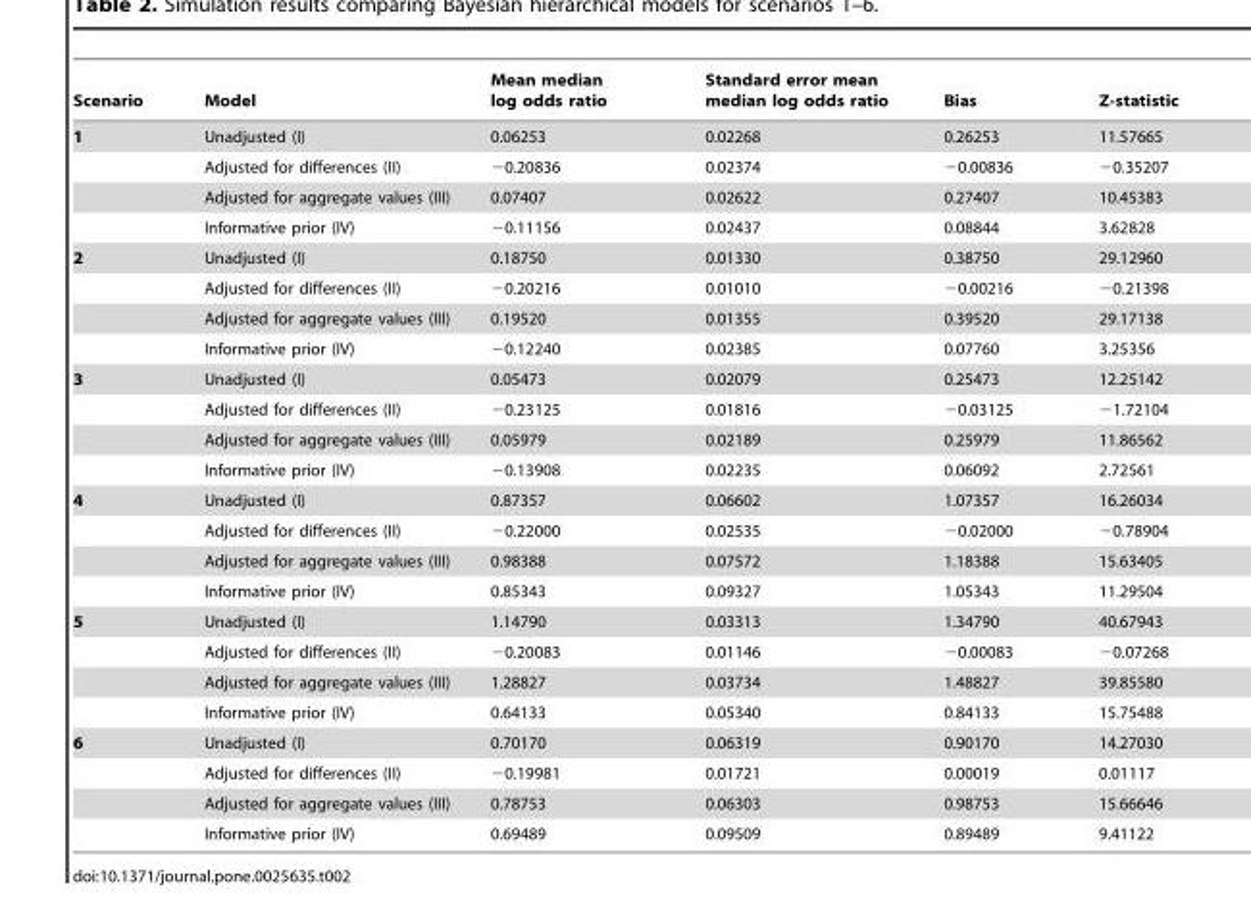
<table><thead><tr><td>Scenario</td><td>Model</td><td>Mean median log odds ratio</td><td>Standard error mean median log odds ratio</td><td>Bias</td><td>Z-statistic</td></tr></thead><tbody><tr><td rowspan="4">1</td><td>Unadjusted (I)</td><td>0.06253</td><td>0.02268</td><td>0.26253</td><td>11.57665</td></tr><tr><td>Adjusted for differences (II)</td><td>−0.20836</td><td>0.02374</td><td>−0.00836</td><td>−0.35207</td></tr><tr><td>Adjusted for aggregate values (III)</td><td>0.07407</td><td>0.02622</td><td>0.27407</td><td>10.45383</td></tr><tr><td>Informative prior (IV)</td><td>−0.11156</td><td>0.02437</td><td>0.08844</td><td>3.62828</td></tr><tr><td rowspan="4">2</td><td>Unadjusted (I)</td><td>0.18750</td><td>0.01330</td><td>0.38750</td><td>29.12960</td></tr><tr><td>Adjusted for differences (II)</td><td>−0.20216</td><td>0.01010</td><td>−0.00216</td><td>−0.21398</td></tr><tr><td>Adjusted for aggregate values (III)</td><td>0.19520</td><td>0.01355</td><td>0.39520</td><td>29.17138</td></tr><tr><td>Informative prior (IV)</td><td>−0.12240</td><td>0.02385</td><td>0.07760</td><td>3.25356</td></tr><tr><td rowspan="4">3</td><td>Unadjusted (I)</td><td>0.05473</td><td>0.02079</td><td>0.25473</td><td>12.25142</td></tr><tr><td>Adjusted for differences (II)</td><td>−0.23125</td><td>0.01816</td><td>−0.03125</td><td>−1.72104</td></tr><tr><td>Adjusted for aggregate values (III)</td><td>0.05979</td><td>0.02189</td><td>0.25979</td><td>11.86562</td></tr><tr><td>Informative prior (IV)</td><td>−0.13908</td><td>0.02235</td><td>0.06092</td><td>2.72561</td></tr><tr><td rowspan="4">4</td><td>Unadjusted (I)</td><td>0.87357</td><td>0.06602</td><td>1.07357</td><td>16.26034</td></tr><tr><td>Adjusted for differences (II)</td><td>−0.22000</td><td>0.02535</td><td>−0.02000</td><td>−0.78904</td></tr><tr><td>Adjusted for aggregate values (III)</td><td>0.98388</td><td>0.07572</td><td>1.18388</td><td>15.63405</td></tr><tr><td>Informative prior (IV)</td><td>0.85343</td><td>0.09327</td><td>1.05343</td><td>11.29504</td></tr><tr><td rowspan="4">5</td><td>Unadjusted (I)</td><td>1.14790</td><td>0.03313</td><td>1.34790</td><td>40.67943</td></tr><tr><td>Adjusted for differences (II)</td><td>−0.20083</td><td>0.01146</td><td>−0.00083</td><td>−0.07268</td></tr><tr><td>Adjusted for aggregate values (III)</td><td>1.28827</td><td>0.03734</td><td>1.48827</td><td>39.85580</td></tr><tr><td>Informative prior (IV)</td><td>0.64133</td><td>0.05340</td><td>0.84133</td><td>15.75488</td></tr><tr><td rowspan="4">6</td><td>Unadjusted (I)</td><td>0.70170</td><td>0.06319</td><td>0.90170</td><td>14.27030</td></tr><tr><td>Adjusted for differences (II)</td><td>−0.19981</td><td>0.01721</td><td>0.00019</td><td>0.01117</td></tr><tr><td>Adjusted for aggregate values (III)</td><td>0.78753</td><td>0.06303</td><td>0.98753</td><td>15.66646</td></tr><tr><td>Informative prior (IV)</td><td>0.69489</td><td>0.09509</td><td>0.89489</td><td>9.41122</td></tr></tbody></table>